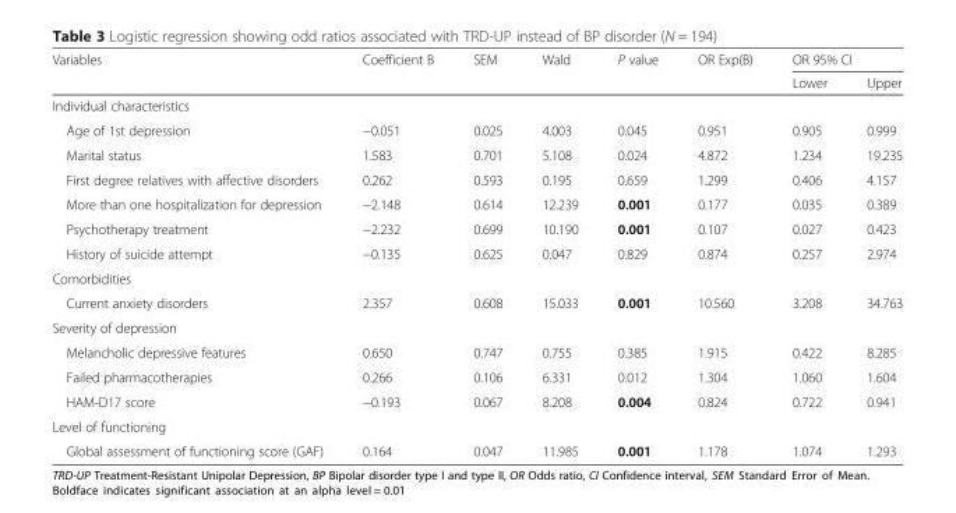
<table><thead><tr><td rowspan="2">Variables</td><td rowspan="2">Coefficient B</td><td rowspan="2">SEM</td><td rowspan="2">Wald</td><td rowspan="2">P value</td><td rowspan="2">OR Exp(B)</td><td colspan="2">OR 95% CI</td></tr><tr><td>Lower</td><td>Upper</td></tr></thead><tbody><tr><td colspan="8">Individual characteristics</td></tr><tr><td>Age of 1st depression</td><td>−0.051</td><td>0.025</td><td>4.003</td><td>0.045</td><td>0.951</td><td>0.905</td><td>0.999</td></tr><tr><td>Marital status</td><td>1.583</td><td>0.701</td><td>5.108</td><td>0.024</td><td>4.872</td><td>1.234</td><td>19.235</td></tr><tr><td>First degree relatives with affective disorders</td><td>0.262</td><td>0.593</td><td>0.195</td><td>0.659</td><td>1.299</td><td>0.406</td><td>4.157</td></tr><tr><td>More than one hospitalization for depression</td><td>−2.148</td><td>0.614</td><td>12.239</td><td>0.001</td><td>0.177</td><td>0.035</td><td>0.389</td></tr><tr><td>Psychotherapy treatment</td><td>−2.232</td><td>0.699</td><td>10.190</td><td>0.001</td><td>0.107</td><td>0.027</td><td>0.423</td></tr><tr><td>History of suicide attempt</td><td>−0.135</td><td>0.625</td><td>0.047</td><td>0.829</td><td>0.874</td><td>0.257</td><td>2.974</td></tr><tr><td colspan="8">Comorbidities</td></tr><tr><td>Current anxiety disorders</td><td>2.357</td><td>0.608</td><td>15.033</td><td>0.001</td><td>10.560</td><td>3.208</td><td>34.763</td></tr><tr><td colspan="8">Severity of depression</td></tr><tr><td>Melancholic depressive features</td><td>0.650</td><td>0.747</td><td>0.755</td><td>0.385</td><td>1.915</td><td>0.422</td><td>8.285</td></tr><tr><td>Failed pharmacotherapies</td><td>0.266</td><td>0.106</td><td>6.331</td><td>0.012</td><td>1.304</td><td>1.060</td><td>1.604</td></tr><tr><td>HAM-D17 score</td><td>−0.193</td><td>0.067</td><td>8.208</td><td>0.004</td><td>0.824</td><td>0.722</td><td>0.941</td></tr><tr><td colspan="8">Level of functioning</td></tr><tr><td>Global assessment of functioning score (GAF)</td><td>0.164</td><td>0.047</td><td>11.985</td><td>0.001</td><td>1.178</td><td>1.074</td><td>1.293</td></tr></tbody></table>